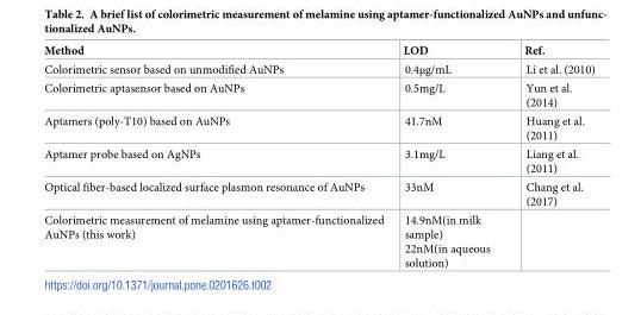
<table><thead><tr><td>Method</td><td>LOD</td><td>Ref.</td></tr></thead><tbody><tr><td>Colorimetric sensor based on unmodified AuNPs</td><td>0.4μg/mL</td><td>Li et al. (2010)</td></tr><tr><td>Colorimetric aptasensor based on AuNPs</td><td>0.5mg/L</td><td>Yun et al. (2014)</td></tr><tr><td>Aptamers (poly-T10) based on AuNPs</td><td>41.7nM</td><td>Huang et al. (2011)</td></tr><tr><td>Aptamer probe based on AgNPs</td><td>3.1mg/L</td><td>Liang et al. (2011)</td></tr><tr><td>Optical fiber-based localized surface plasmon resonance of AuNPs</td><td>33nM</td><td>Chang et al. (2017)</td></tr><tr><td>Colorimetric measurement of melamine using aptamer-functionalized AuNPs (this work)</td><td>14.9nM(in milk sample) 22nM(in aqueous solution)</td><td></td></tr></tbody></table>